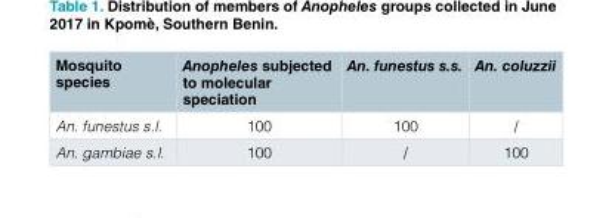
<table><thead><tr><td>Mosquito species</td><td>Anopheles subjected to molecular speciation</td><td>An. funestus s.s.</td><td>An. coluzzii</td></tr></thead><tbody><tr><td>An. funestus s.l.</td><td>100</td><td>100</td><td>/</td></tr><tr><td>An. gambiae s.l.</td><td>100</td><td>/</td><td>100</td></tr></tbody></table>